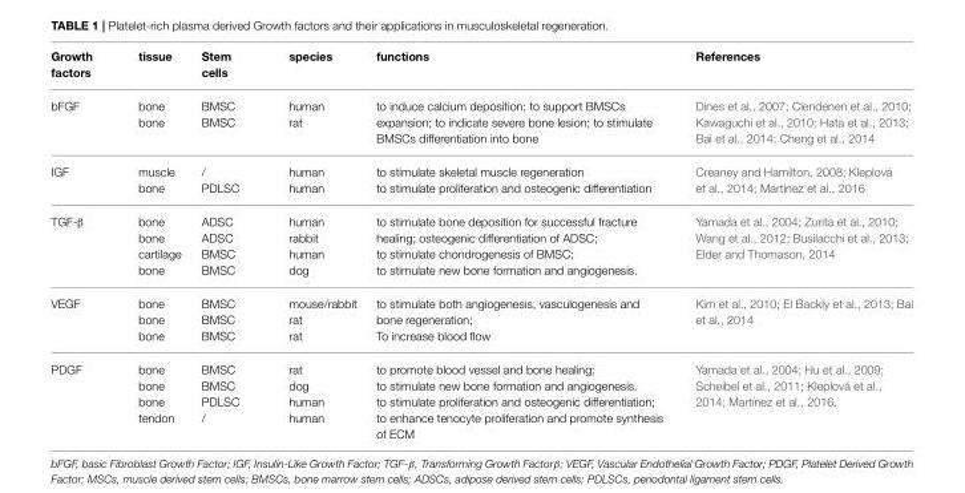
<table><thead><tr><td>Growth factors</td><td>tissue</td><td>Stem cells</td><td>species</td><td>functions</td><td>References</td></tr></thead><tbody><tr><td>bFGF</td><td>bone bone</td><td>BMSC BMSC</td><td>human rat</td><td>to induce calcium deposition; to support BMSCs expansion; to indicate severe bone lesion; to stimulate BMSCs differentiation into bone</td><td>Dines et al., 2007; Clendenen et al., 2010; Kawaguchi et al., 2010; Hata et al., 2013; Bai et al., 2014; Cheng et al., 2014</td></tr><tr><td>IGF</td><td>muscle bone</td><td>/ PDLSC</td><td>human human</td><td>to stimulate skeletal muscle regeneration to stimulate proliferation and osteogenic differentiation</td><td>Creaney and Hamilton, 2008; Kleplová et al., 2014; Martínez et al., 2016</td></tr><tr><td>TGF-β</td><td>bone bone cartilage bone</td><td>ADSC ADSC BMSC BMSC</td><td>human rabbit human dog</td><td>to stimulate bone deposition for successful fracture healing; osteogenic differentiation of ADSC; to stimulate chondrogenesis of BMSC; to stimulate new bone formation and angiogenesis.</td><td>Yamada et al., 2004; Zurita et al., 2010; Wang et al., 2012; Busilacchi et al., 2013; Elder and Thomason, 2014</td></tr><tr><td>VEGF</td><td>bone bone bone</td><td>BMSC BMSC BMSC</td><td>mouse/rabbit rat rat</td><td>to stimulate both angiogenesis, vasculogenesis and bone regeneration; To increase blood flow</td><td>Kim et al., 2010; El Backly et al., 2013; Bai et al., 2014</td></tr><tr><td>PDGF</td><td>bone bone bone tendon</td><td>BMSC BMSC PDLSC /</td><td>rat dog human human</td><td>to promote blood vessel and bone healing; to stimulate new bone formation and angiogenesis. to stimulate proliferation and osteogenic differentiation; to enhance tenocyte proliferation and promote synthesis of ECM</td><td>Yamada et al., 2004; Hu et al., 2009; Scheibel et al., 2011; Kleplová et al., 2014; Martínez et al., 2016.</td></tr></tbody></table>